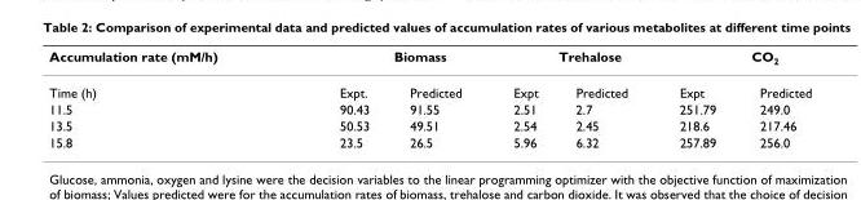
<table><thead><tr><td rowspan="2">Accumulation rate (mM/h) Time (h)</td><td colspan="2">Biomass</td><td colspan="2">Trehalose</td><td colspan="2">CO<sub>2</sub></td></tr><tr><td>Expt.</td><td>Predicted</td><td>Expt</td><td>Predicted</td><td>Expt</td><td>Predicted</td></tr></thead><tbody><tr><td>11.5</td><td>90.43</td><td>91.55</td><td>2.51</td><td>2.7</td><td>251.79</td><td>249.0</td></tr><tr><td>13.5</td><td>50.53</td><td>49.51</td><td>2.54</td><td>2.45</td><td>218.6</td><td>217.46</td></tr><tr><td>15.8</td><td>23.5</td><td>26.5</td><td>5.96</td><td>6.32</td><td>257.89</td><td>256.0</td></tr></tbody></table>